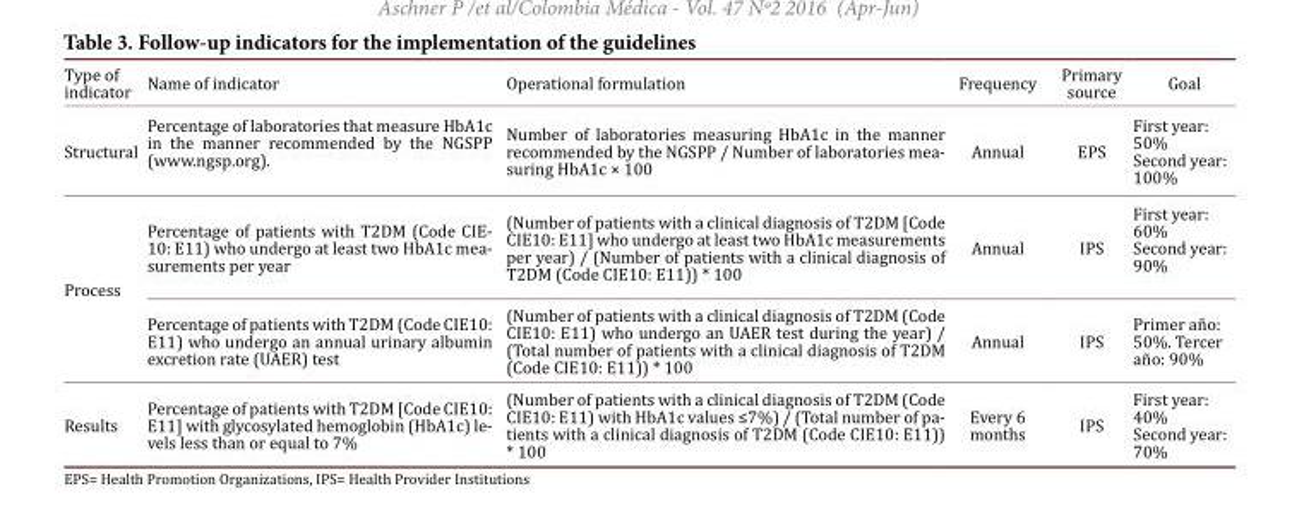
<table><thead><tr><td>Type of indicator</td><td>Name of indicator</td><td>Operational formulation</td><td>Frequency</td><td>Primary source</td><td>Goal</td></tr></thead><tbody><tr><td>Structural</td><td>Percentage of laboratories that measure HbA1c in the manner recommended by the NGSPP (www.ngsp.org).</td><td>Number of laboratories measuring HbA1c in the manner recommended by the NGSPP / Number of laboratories mea- suring HbA1c × 100</td><td>Annual</td><td>EPS</td><td>First year: 50% Second year: 100%</td></tr><tr><td rowspan="2">Process</td><td>Percentage of patients with T2DM (Code CIE- 10: E11) who undergo at least two HbA1c mea- surements per year</td><td>(Number of patients with a clinical diagnosis of T2DM [Code CIE10: E11] who undergo at least two HbA1c measurements per year) / (Number of patients with a clinical diagnosis of T2DM (Code CIE10: E11)) * 100</td><td>Annual</td><td>IPS</td><td>First year: 60% Second year: 90%</td></tr><tr><td>Percentage of patients with T2DM (Code CIE10: E11) who undergo an annual urinary albumin excretion rate (UAER) test</td><td>(Number of patients with a clinical diagnosis of T2DM (Code CIE10: E11) who undergo an UAER test during the year) / (Total number of patients with a clinical diagnosis of T2DM (Code CIE10: E11)) * 100</td><td>Annual</td><td>IPS</td><td>Primer año: 50%. Tercer año: 90%</td></tr><tr><td>Results</td><td>Percentage of patients with T2DM [Code CIE10: E11] with glycosylated hemoglobin (HbA1c) le- vels less than or equal to 7%</td><td>(Number of patients with a clinical diagnosis of T2DM (Code CIE10: E11) with HbA1c values ≤7%) / (Total number of pa- tients with a clinical diagnosis of T2DM (Code CIE10: E11)) * 100</td><td>Every 6 months</td><td>IPS</td><td>First year: 40% Second year: 70%</td></tr></tbody></table>